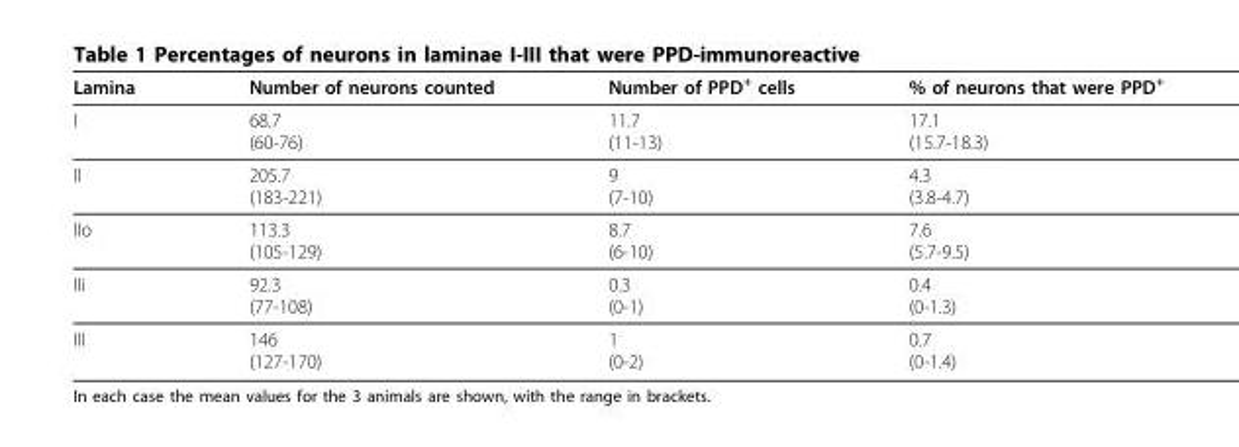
<table><thead><tr><td>Lamina</td><td>Number of neurons counted</td><td>Number of PPD<sup>+</sup> cells</td><td>% of neurons that were PPD<sup>+</sup></td></tr></thead><tbody><tr><td>I</td><td>68.7 (60-76)</td><td>11.7 (11-13)</td><td>17.1 (15.7-18.3)</td></tr><tr><td>II</td><td>205.7 (183-221)</td><td>9 (7-10)</td><td>4.3 (3.8-4.7)</td></tr><tr><td>IIo</td><td>113.3 (105-129)</td><td>8.7 (6-10)</td><td>7.6 (5.7-9.5)</td></tr><tr><td>IIi</td><td>92.3 (77-108)</td><td>0.3 (0-1)</td><td>0.4 (0-1.3)</td></tr><tr><td>III</td><td>146 (127-170)</td><td>1 (0-2)</td><td>0.7 (0-1.4)</td></tr></tbody></table>